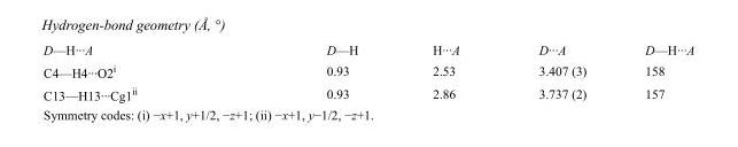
<table><tbody><tr><td>D—H···A</td><td>D—H</td><td>H···A</td><td>D···A</td><td>D—H···A</td></tr><tr><td>C4—H4···O2<sup>i</sup></td><td>0.93</td><td>2.53</td><td>3.407 (3)</td><td>158</td></tr><tr><td>C13—H13···Cg1<sup>ii</sup></td><td>0.93</td><td>2.86</td><td>3.737 (2)</td><td>157</td></tr></tbody></table>